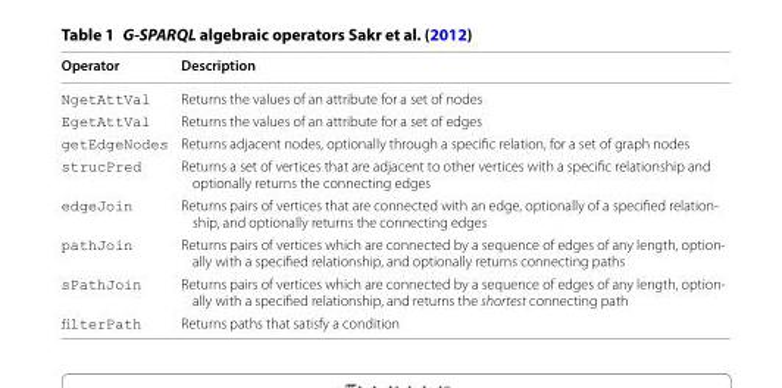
<table><thead><tr><td>Operator</td><td>Description</td></tr></thead><tbody><tr><td>NgetAttVal</td><td>Returns the values of an attribute for a set of nodes</td></tr><tr><td>EgetAttVal</td><td>Returns the values of an attribute for a set of edges</td></tr><tr><td>getEdgeNodes</td><td>Returns adjacent nodes, optionally through a specific relation, for a set of graph nodes</td></tr><tr><td>strucPred</td><td>Returns a set of vertices that are adjacent to other vertices with a specific relationship and optionally returns the connecting edges</td></tr><tr><td>edgeJoin</td><td>Returns pairs of vertices that are connected with an edge, optionally of a specified relation- ship, and optionally returns the connecting edges</td></tr><tr><td>pathJoin</td><td>Returns pairs of vertices which are connected by a sequence of edges of any length, option- ally with a specified relationship, and optionally returns connecting paths</td></tr><tr><td>sPathJoin</td><td>Returns pairs of vertices which are connected by a sequence of edges of any length, option- ally with a specified relationship, and returns the shortest connecting path</td></tr><tr><td>filterPath</td><td>Returns paths that satisfy a condition</td></tr></tbody></table>